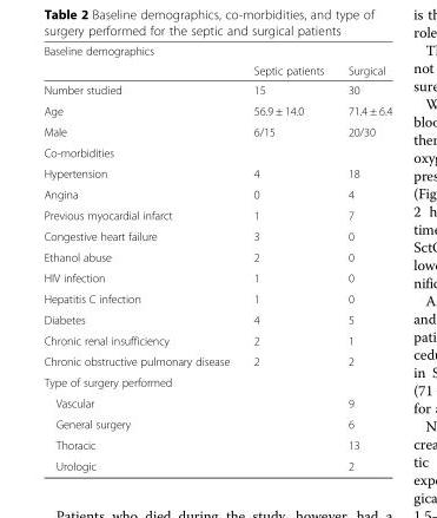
<table><thead><tr><td rowspan="2">Baseline demographics</td><td rowspan="2">Septic patients</td><td rowspan="2">Surgical</td></tr><tr></tr></thead><tbody><tr><td>Number studied</td><td>15</td><td>30</td></tr><tr><td>Age</td><td>56.9 ± 14.0</td><td>71.4 ± 6.4</td></tr><tr><td>Male</td><td>6/15</td><td>20/30</td></tr><tr><td colspan="3">Co-morbidities</td></tr><tr><td>Hypertension</td><td>4</td><td>18</td></tr><tr><td>Angina</td><td>0</td><td>4</td></tr><tr><td>Previous myocardial infarct</td><td>1</td><td>7</td></tr><tr><td>Congestive heart failure</td><td>3</td><td>0</td></tr><tr><td>Ethanol abuse</td><td>2</td><td>0</td></tr><tr><td>HIV infection</td><td>1</td><td>0</td></tr><tr><td>Hepatitis C infection</td><td>1</td><td>0</td></tr><tr><td>Diabetes</td><td>4</td><td>5</td></tr><tr><td>Chronic renal insufficiency</td><td>2</td><td>1</td></tr><tr><td>Chronic obstructive pulmonary disease</td><td>2</td><td>2</td></tr><tr><td colspan="3">Type of surgery performed</td></tr><tr><td>Vascular</td><td></td><td>9</td></tr><tr><td>General surgery</td><td></td><td>6</td></tr><tr><td>Thoracic</td><td></td><td>13</td></tr><tr><td>Urologic</td><td></td><td>2</td></tr></tbody></table>